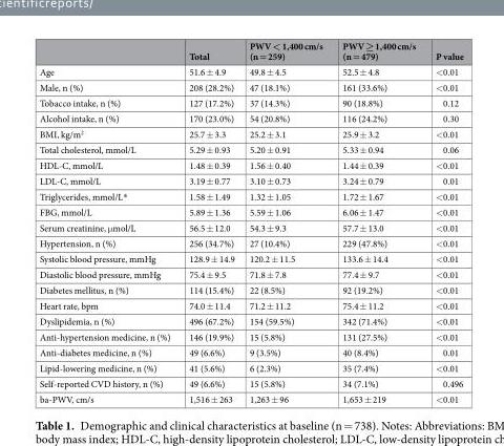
<table><thead><tr><td></td><td>Total</td><td>PWV &lt; 1,400 cm/s (n = 259)</td><td>PWV ≥ 1,400 cm/s (n = 479)</td><td>P value</td></tr></thead><tbody><tr><td>Age</td><td>51.6 ± 4.9</td><td>49.8 ± 4.5</td><td>52.5 ± 4.8</td><td>&lt;0.01</td></tr><tr><td>Male, n (%)</td><td>208 (28.2%)</td><td>47 (18.1%)</td><td>161 (33.6%)</td><td>&lt;0.01</td></tr><tr><td>Tobacco intake, n (%)</td><td>127 (17.2%)</td><td>37 (14.3%)</td><td>90 (18.8%)</td><td>0.12</td></tr><tr><td>Alcohol intake, n (%)</td><td>170 (23.0%)</td><td>54 (20.8%)</td><td>116 (24.2%)</td><td>0.30</td></tr><tr><td>BMI, kg/m<sup>2</sup></td><td>25.7 ± 3.3</td><td>25.2 ± 3.1</td><td>25.9 ± 3.2</td><td>&lt;0.01</td></tr><tr><td>Total cholesterol, mmol/L</td><td>5.29 ± 0.93</td><td>5.20 ± 0.91</td><td>5.33 ± 0.94</td><td>0.06</td></tr><tr><td>HDL-C, mmol/L</td><td>1.48 ± 0.39</td><td>1.56 ± 0.40</td><td>1.44 ± 0.39</td><td>&lt;0.01</td></tr><tr><td>LDL-C, mmol/L</td><td>3.19 ± 0.77</td><td>3.10 ± 0.73</td><td>3.24 ± 0.79</td><td>0.01</td></tr><tr><td>Triglycerides, mmol/L*</td><td>1.58 ± 1.49</td><td>1.32 ± 1.05</td><td>1.72 ± 1.67</td><td>&lt;0.01</td></tr><tr><td>FBG, mmol/L</td><td>5.89 ± 1.36</td><td>5.59 ± 1.06</td><td>6.06 ± 1.47</td><td>&lt;0.01</td></tr><tr><td>Serum creatinine, μmol/L</td><td>56.5 ± 12.0</td><td>54.3 ± 9.3</td><td>57.7 ± 13.0</td><td>&lt;0.01</td></tr><tr><td>Hypertension, n (%)</td><td>256 (34.7%)</td><td>27 (10.4%)</td><td>229 (47.8%)</td><td>&lt;0.01</td></tr><tr><td>Systolic blood pressure, mmHg</td><td>128.9 ± 14.9</td><td>120.2 ± 11.5</td><td>133.6 ± 14.4</td><td>&lt;0.01</td></tr><tr><td>Diastolic blood pressure, mmHg</td><td>75.4 ± 9.5</td><td>71.8 ± 7.8</td><td>77.4 ± 9.7</td><td>&lt;0.01</td></tr><tr><td>Diabetes mellitus, n (%)</td><td>114 (15.4%)</td><td>22 (8.5%)</td><td>92 (19.2%)</td><td>&lt;0.01</td></tr><tr><td>Heart rate, bpm</td><td>74.0 ± 11.4</td><td>71.2 ± 11.2</td><td>75.4 ± 11.2</td><td>&lt;0.01</td></tr><tr><td>Dyslipidemia, n (%)</td><td>496 (67.2%)</td><td>154 (59.5%)</td><td>342 (71.4%)</td><td>&lt;0.01</td></tr><tr><td>Anti-hypertension medicine, n (%)</td><td>146 (19.9%)</td><td>15 (5.8%)</td><td>131 (27.5%)</td><td>&lt;0.01</td></tr><tr><td>Anti-diabetes medicine, n (%)</td><td>49 (6.6%)</td><td>9 (3.5%)</td><td>40 (8.4%)</td><td>0.01</td></tr><tr><td>Lipid-lowering medicine, n (%)</td><td>41 (5.6%)</td><td>6 (2.3%)</td><td>35 (7.4%)</td><td>&lt;0.01</td></tr><tr><td>Self-reported CVD history, n (%)</td><td>49 (6.6%)</td><td>15 (5.8%)</td><td>34 (7.1%)</td><td>0.496</td></tr><tr><td>ba-PWV, cm/s</td><td>1,516 ± 263</td><td>1,263 ± 96</td><td>1,653 ± 219</td><td>&lt;0.01</td></tr></tbody></table>